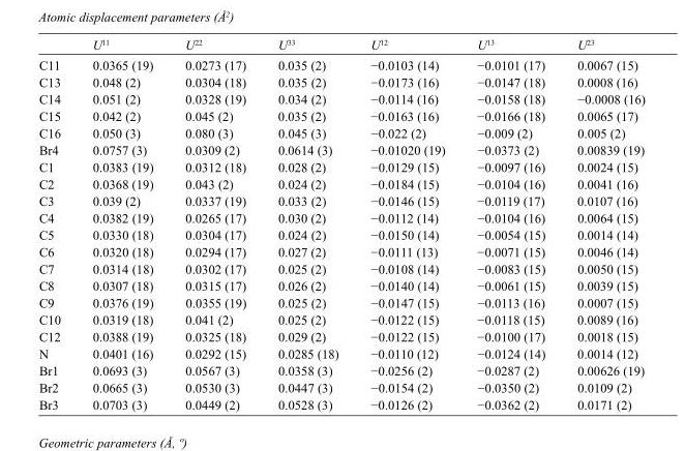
<table><thead><tr><td></td><td>U<sup>11</sup></td><td>U<sup>22</sup></td><td>U<sup>33</sup></td><td>U<sup>12</sup></td><td>U<sup>13</sup></td><td>U<sup>23</sup></td></tr></thead><tbody><tr><td>C11</td><td>0.0365 (19)</td><td>0.0273 (17)</td><td>0.035 (2)</td><td>−0.0103 (14)</td><td>−0.0101 (17)</td><td>0.0067 (15)</td></tr><tr><td>C13</td><td>0.048 (2)</td><td>0.0304 (18)</td><td>0.035 (2)</td><td>−0.0173 (16)</td><td>−0.0147 (18)</td><td>0.0008 (16)</td></tr><tr><td>C14</td><td>0.051 (2)</td><td>0.0328 (19)</td><td>0.034 (2)</td><td>−0.0114 (16)</td><td>−0.0158 (18)</td><td>−0.0008 (16)</td></tr><tr><td>C15</td><td>0.042 (2)</td><td>0.045 (2)</td><td>0.035 (2)</td><td>−0.0163 (16)</td><td>−0.0166 (18)</td><td>0.0065 (17)</td></tr><tr><td>C16</td><td>0.050 (3)</td><td>0.080 (3)</td><td>0.045 (3)</td><td>−0.022 (2)</td><td>−0.009 (2)</td><td>0.005 (2)</td></tr><tr><td>Br4</td><td>0.0757 (3)</td><td>0.0309 (2)</td><td>0.0614 (3)</td><td>−0.01020 (19)</td><td>−0.0373 (2)</td><td>0.00839 (19)</td></tr><tr><td>C1</td><td>0.0383 (19)</td><td>0.0312 (18)</td><td>0.028 (2)</td><td>−0.0129 (15)</td><td>−0.0097 (16)</td><td>0.0024 (15)</td></tr><tr><td>C2</td><td>0.0368 (19)</td><td>0.043 (2)</td><td>0.024 (2)</td><td>−0.0184 (15)</td><td>−0.0104 (16)</td><td>0.0041 (16)</td></tr><tr><td>C3</td><td>0.039 (2)</td><td>0.0337 (19)</td><td>0.033 (2)</td><td>−0.0146 (15)</td><td>−0.0119 (17)</td><td>0.0107 (16)</td></tr><tr><td>C4</td><td>0.0382 (19)</td><td>0.0265 (17)</td><td>0.030 (2)</td><td>−0.0112 (14)</td><td>−0.0104 (16)</td><td>0.0064 (15)</td></tr><tr><td>C5</td><td>0.0330 (18)</td><td>0.0304 (17)</td><td>0.024 (2)</td><td>−0.0150 (14)</td><td>−0.0054 (15)</td><td>0.0014 (14)</td></tr><tr><td>C6</td><td>0.0320 (18)</td><td>0.0294 (17)</td><td>0.027 (2)</td><td>−0.0111 (13)</td><td>−0.0071 (15)</td><td>0.0046 (14)</td></tr><tr><td>C7</td><td>0.0314 (18)</td><td>0.0302 (17)</td><td>0.025 (2)</td><td>−0.0108 (14)</td><td>−0.0083 (15)</td><td>0.0050 (15)</td></tr><tr><td>C8</td><td>0.0307 (18)</td><td>0.0315 (17)</td><td>0.026 (2)</td><td>−0.0140 (14)</td><td>−0.0061 (15)</td><td>0.0039 (15)</td></tr><tr><td>C9</td><td>0.0376 (19)</td><td>0.0355 (19)</td><td>0.025 (2)</td><td>−0.0147 (15)</td><td>−0.0113 (16)</td><td>0.0007 (15)</td></tr><tr><td>C10</td><td>0.0319 (18)</td><td>0.041 (2)</td><td>0.025 (2)</td><td>−0.0122 (15)</td><td>−0.0118 (15)</td><td>0.0089 (16)</td></tr><tr><td>C12</td><td>0.0388 (19)</td><td>0.0325 (18)</td><td>0.029 (2)</td><td>−0.0122 (15)</td><td>−0.0100 (17)</td><td>0.0018 (15)</td></tr><tr><td>N</td><td>0.0401 (16)</td><td>0.0292 (15)</td><td>0.0285 (18)</td><td>−0.0110 (12)</td><td>−0.0124 (14)</td><td>0.0014 (12)</td></tr><tr><td>Br1</td><td>0.0693 (3)</td><td>0.0567 (3)</td><td>0.0358 (3)</td><td>−0.0256 (2)</td><td>−0.0287 (2)</td><td>0.00626 (19)</td></tr><tr><td>Br2</td><td>0.0665 (3)</td><td>0.0530 (3)</td><td>0.0447 (3)</td><td>−0.0154 (2)</td><td>−0.0350 (2)</td><td>0.0109 (2)</td></tr><tr><td>Br3</td><td>0.0703 (3)</td><td>0.0449 (2)</td><td>0.0528 (3)</td><td>−0.0126 (2)</td><td>−0.0362 (2)</td><td>0.0171 (2)</td></tr></tbody></table>